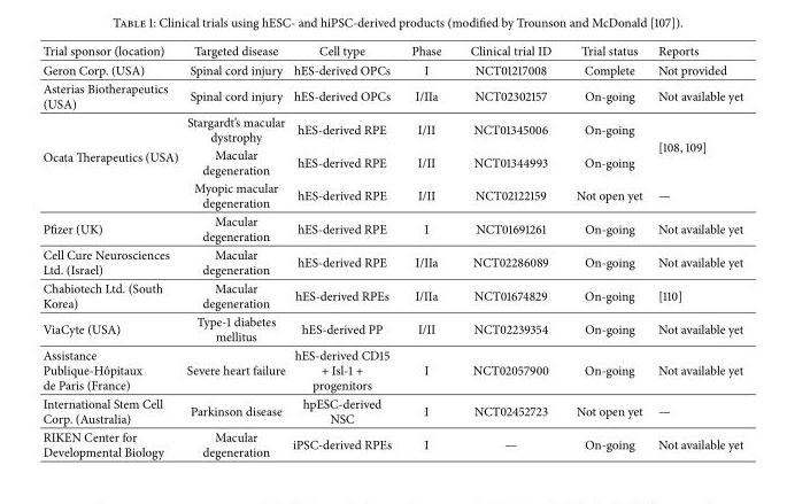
<table><thead><tr><td>Trial sponsor (location)</td><td>Targeted disease</td><td>Cell type</td><td>Phase</td><td>Clinical trial ID</td><td>Trial status</td><td>Reports</td></tr></thead><tbody><tr><td>Geron Corp. (USA)</td><td>Spinal cord injury</td><td>hES-derived OPCs</td><td>I</td><td>NCT01217008</td><td>Complete</td><td>Not provided</td></tr><tr><td>Asterias Biotherapeutics (USA)</td><td>Spinal cord injury</td><td>hES-derived OPCs</td><td>I/IIa</td><td>NCT02302157</td><td>On-going</td><td>Not available yet</td></tr><tr><td rowspan="3">Ocata Therapeutics (USA)</td><td>Stargardt’s macular dystrophy</td><td>hES-derived RPE</td><td>I/II</td><td>NCT01345006</td><td>On-going</td><td rowspan="2">[108, 109]</td></tr><tr><td>Macular degeneration</td><td>hES-derived RPE</td><td>I/II</td><td>NCT01344993</td><td>On-going</td></tr><tr><td>Myopic macular degeneration</td><td>hES-derived RPE</td><td>I/II</td><td>NCT02122159</td><td>Not open yet</td><td>—</td></tr><tr><td>Pfizer (UK)</td><td>Macular degeneration</td><td>hES-derived RPE</td><td>I</td><td>NCT01691261</td><td>On-going</td><td>Not available yet</td></tr><tr><td>Cell Cure Neurosciences Ltd. (Israel)</td><td>Macular degeneration</td><td>hES-derived RPE</td><td>I/IIa</td><td>NCT02286089</td><td>On-going</td><td>Not available yet</td></tr><tr><td>Chabiotech Ltd. (South Korea)</td><td>Macular degeneration</td><td>hES-derived RPEs</td><td>I/IIa</td><td>NCT01674829</td><td>On-going</td><td>[110]</td></tr><tr><td>ViaCyte (USA)</td><td>Type-1 diabetes mellitus</td><td>hES-derived PP</td><td>I/II</td><td>NCT02239354</td><td>On-going</td><td>Not available yet</td></tr><tr><td>Assistance Publique-Hˆopitaux de Paris (France)</td><td>Severe heart failure</td><td>hES-derived CD15 + Isl-1 + progenitors</td><td>I</td><td>NCT02057900</td><td>On-going</td><td>Not available yet</td></tr><tr><td>International Stem Cell Corp. (Australia)</td><td>Parkinson disease</td><td>hpESC-derived NSC</td><td>I</td><td>NCT02452723</td><td>Not open yet</td><td>—</td></tr><tr><td>RIKEN Center for Developmental Biology</td><td>Macular degeneration</td><td>iPSC-derived RPEs</td><td>I</td><td>—</td><td>On-going</td><td>Not available yet</td></tr></tbody></table>